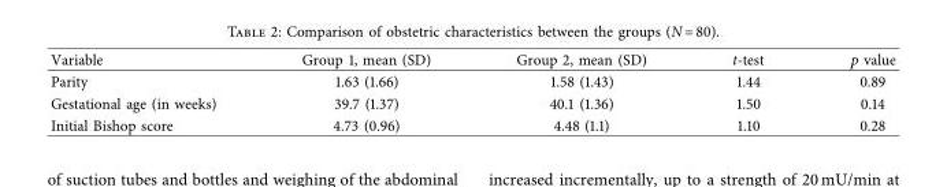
<table><thead><tr><td>Variable</td><td>Group 1, mean (SD)</td><td>Group 2, mean (SD)</td><td>t-test</td><td>p value</td></tr></thead><tbody><tr><td>Parity</td><td>1.63 (1.66)</td><td>1.58 (1.43)</td><td>1.44</td><td>0.89</td></tr><tr><td>Gestational age (in weeks)</td><td>39.7 (1.37)</td><td>40.1 (1.36)</td><td>1.50</td><td>0.14</td></tr><tr><td>Initial Bishop score</td><td>4.73 (0.96)</td><td>4.48 (1.1)</td><td>1.10</td><td>0.28</td></tr></tbody></table>